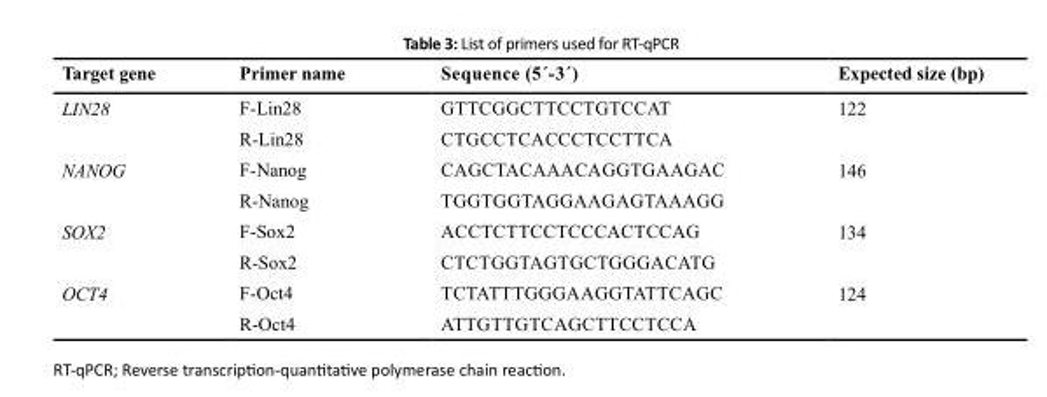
<table><thead><tr><td>Target gene</td><td>Primer name</td><td>Sequence (5´-3´)</td><td>Expected size (bp)</td></tr></thead><tbody><tr><td rowspan="2">LIN28</td><td>F-Lin28</td><td>GTTCGGCTTCCTGTCCAT</td><td rowspan="2">122</td></tr><tr><td>R-Lin28</td><td>CTGCCTCACCCTCCTTCA</td></tr><tr><td rowspan="2">NANOG</td><td>F-Nanog</td><td>CAGCTACAAACAGGTGAAGAC</td><td rowspan="2">146</td></tr><tr><td>R-Nanog</td><td>TGGTGGTAGGAAGAGTAAAGG</td></tr><tr><td rowspan="2">SOX2</td><td>F-Sox2</td><td>ACCTCTTCCTCCCACTCCAG</td><td rowspan="2">134</td></tr><tr><td>R-Sox2</td><td>CTCTGGTAGTGCTGGGACATG</td></tr><tr><td rowspan="2">OCT4</td><td>F-Oct4</td><td>TCTATTTGGGAAGGTATTCAGC</td><td rowspan="2">124</td></tr><tr><td>R-Oct4</td><td>ATTGTTGTCAGCTTCCTCCA</td></tr></tbody></table>